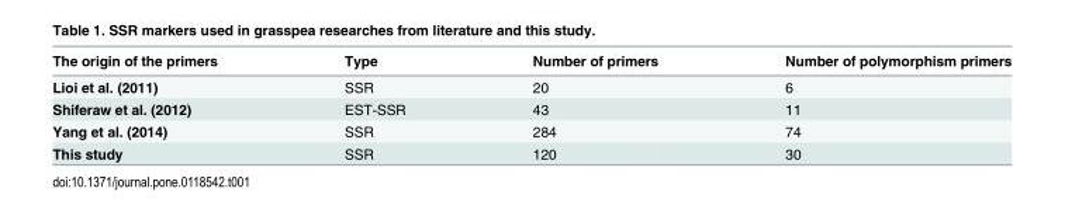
<table><thead><tr><td>The origin of the primers</td><td>Type</td><td>Number of primers</td><td>Number of polymorphism primers</td></tr></thead><tbody><tr><td>Lioi et al. (2011)</td><td>SSR</td><td>20</td><td>6</td></tr><tr><td>Shiferaw et al. (2012)</td><td>EST-SSR</td><td>43</td><td>11</td></tr><tr><td>Yang et al. (2014)</td><td>SSR</td><td>284</td><td>74</td></tr><tr><td>This study</td><td>SSR</td><td>120</td><td>30</td></tr></tbody></table>